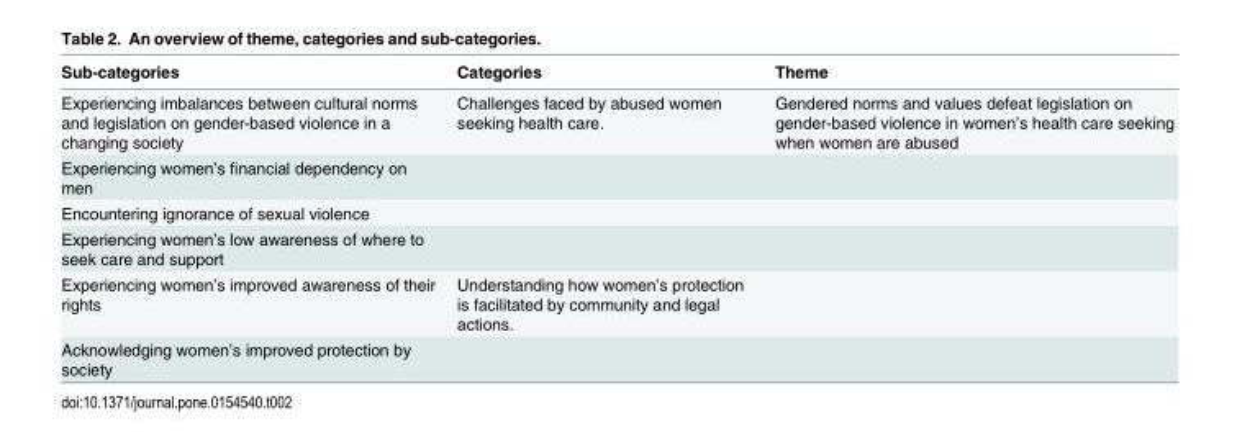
<table><thead><tr><td>Sub-categories</td><td>Categories</td><td>Theme</td></tr></thead><tbody><tr><td>Experiencing imbalances between cultural norms and legislation on gender-based violence in a changing society</td><td>Challenges faced by abused women seeking health care.</td><td>Gendered norms and values defeat legislation on gender-based violence in women’s health care seeking when women are abused</td></tr><tr><td colspan="3">Experiencing women’s financial dependency on men</td></tr><tr><td colspan="3">Encountering ignorance of sexual violence</td></tr><tr><td colspan="3">Experiencing women’s low awareness of where to seek care and support</td></tr><tr><td>Experiencing women’s improved awareness of their rights</td><td>Understanding how women’s protection is facilitated by community and legal actions.</td><td></td></tr><tr><td>Acknowledging women’s improved protection by society</td><td></td><td></td></tr></tbody></table>